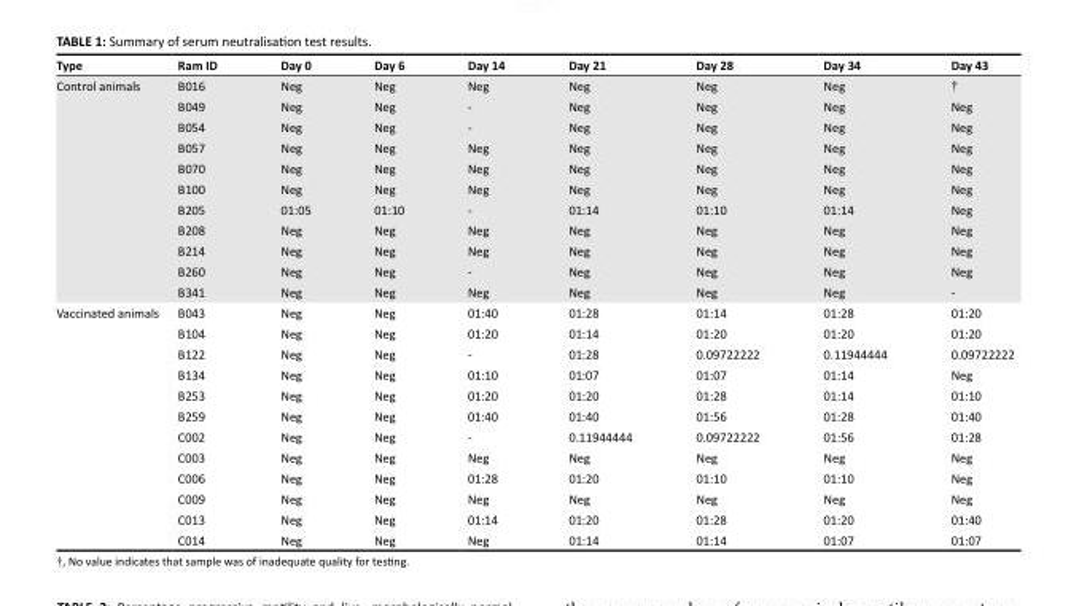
<table><thead><tr><td>Type</td><td>Ram ID</td><td>Day 0</td><td>Day 6</td><td>Day 14</td><td>Day 21</td><td>Day 28</td><td>Day 34</td><td>Day 43</td></tr></thead><tbody><tr><td rowspan="11">Control animals</td><td>B016</td><td>Neg</td><td>Neg</td><td>Neg</td><td>Neg</td><td>Neg</td><td>Neg</td><td>†</td></tr><tr><td>B049</td><td>Neg</td><td>Neg</td><td>-</td><td>Neg</td><td>Neg</td><td>Neg</td><td>Neg</td></tr><tr><td>B054</td><td>Neg</td><td>Neg</td><td>-</td><td>Neg</td><td>Neg</td><td>Neg</td><td>Neg</td></tr><tr><td>B057</td><td>Neg</td><td>Neg</td><td>Neg</td><td>Neg</td><td>Neg</td><td>Neg</td><td>Neg</td></tr><tr><td>B070</td><td>Neg</td><td>Neg</td><td>Neg</td><td>Neg</td><td>Neg</td><td>Neg</td><td>Neg</td></tr><tr><td>B100</td><td>Neg</td><td>Neg</td><td>Neg</td><td>Neg</td><td>Neg</td><td>Neg</td><td>Neg</td></tr><tr><td>B205</td><td>01:05</td><td>01:10</td><td>-</td><td>01:14</td><td>01:10</td><td>01:14</td><td>Neg</td></tr><tr><td>B208</td><td>Neg</td><td>Neg</td><td>Neg</td><td>Neg</td><td>Neg</td><td>Neg</td><td>Neg</td></tr><tr><td>B214</td><td>Neg</td><td>Neg</td><td>Neg</td><td>Neg</td><td>Neg</td><td>Neg</td><td>Neg</td></tr><tr><td>B260</td><td>Neg</td><td>Neg</td><td>-</td><td>Neg</td><td>Neg</td><td>Neg</td><td>Neg</td></tr><tr><td>B341</td><td>Neg</td><td>Neg</td><td>Neg</td><td>Neg</td><td>Neg</td><td>Neg</td><td>-</td></tr><tr><td rowspan="12">Vaccinated animals</td><td>B043</td><td>Neg</td><td>Neg</td><td>01:40</td><td>01:28</td><td>01:14</td><td>01:28</td><td>01:20</td></tr><tr><td>B104</td><td>Neg</td><td>Neg</td><td>01:20</td><td>01:14</td><td>01:20</td><td>01:20</td><td>01:20</td></tr><tr><td>B122</td><td>Neg</td><td>Neg</td><td>-</td><td>01:28</td><td>0.09722222</td><td>0.11944444</td><td>0.09722222</td></tr><tr><td>B134</td><td>Neg</td><td>Neg</td><td>01:10</td><td>01:07</td><td>01:07</td><td>01:14</td><td>Neg</td></tr><tr><td>B253</td><td>Neg</td><td>Neg</td><td>01:20</td><td>01:20</td><td>01:28</td><td>01:14</td><td>01:10</td></tr><tr><td>B259</td><td>Neg</td><td>Neg</td><td>01:40</td><td>01:40</td><td>01:56</td><td>01:28</td><td>01:40</td></tr><tr><td>C002</td><td>Neg</td><td>Neg</td><td>-</td><td>0.11944444</td><td>0.09722222</td><td>01:56</td><td>01:28</td></tr><tr><td>C003</td><td>Neg</td><td>Neg</td><td>Neg</td><td>Neg</td><td>Neg</td><td>Neg</td><td>Neg</td></tr><tr><td>C006</td><td>Neg</td><td>Neg</td><td>01:28</td><td>01:20</td><td>01:10</td><td>01:10</td><td>Neg</td></tr><tr><td>C009</td><td>Neg</td><td>Neg</td><td>Neg</td><td>Neg</td><td>Neg</td><td>Neg</td><td>Neg</td></tr><tr><td>C013</td><td>Neg</td><td>Neg</td><td>01:14</td><td>01:20</td><td>01:28</td><td>01:20</td><td>01:40</td></tr><tr><td>C014</td><td>Neg</td><td>Neg</td><td>Neg</td><td>01:14</td><td>01:14</td><td>01:07</td><td>01:07</td></tr></tbody></table>